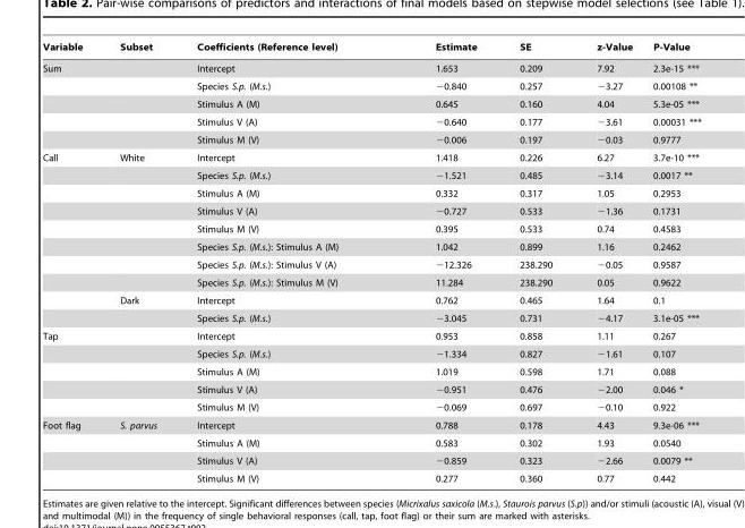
<table><thead><tr><td>Variable</td><td>Subset</td><td>Coefficients (Reference level)</td><td>Estimate</td><td>SE</td><td>z-Value</td><td>P-Value</td></tr></thead><tbody><tr><td rowspan="5">Sum</td><td></td><td>Intercept</td><td>1.653</td><td>0.209</td><td>7.92</td><td>2.3e-15 ***</td></tr><tr><td></td><td>Species S.p. (M.s.)</td><td>−0.840</td><td>0.257</td><td>−3.27</td><td>0.00108 **</td></tr><tr><td></td><td>Stimulus A (M)</td><td>0.645</td><td>0.160</td><td>4.04</td><td>5.3e-05 ***</td></tr><tr><td></td><td>Stimulus V (A)</td><td>−0.640</td><td>0.177</td><td>−3.61</td><td>0.00031 ***</td></tr><tr><td></td><td>Stimulus M (V)</td><td>−0.006</td><td>0.197</td><td>−0.03</td><td>0.9777</td></tr><tr><td rowspan="10">Call</td><td>White</td><td>Intercept</td><td>1.418</td><td>0.226</td><td>6.27</td><td>3.7e-10 ***</td></tr><tr><td></td><td>Species S.p. (M.s.)</td><td>−1.521</td><td>0.485</td><td>−3.14</td><td>0.0017 **</td></tr><tr><td></td><td>Stimulus A (M)</td><td>0.332</td><td>0.317</td><td>1.05</td><td>0.2953</td></tr><tr><td></td><td>Stimulus V (A)</td><td>−0.727</td><td>0.533</td><td>−1.36</td><td>0.1731</td></tr><tr><td></td><td>Stimulus M (V)</td><td>0.395</td><td>0.533</td><td>0.74</td><td>0.4583</td></tr><tr><td></td><td>Species S.p. (M.s.): Stimulus A (M)</td><td>1.042</td><td>0.899</td><td>1.16</td><td>0.2462</td></tr><tr><td></td><td>Species S.p. (M.s.): Stimulus V (A)</td><td>−12.326</td><td>238.290</td><td>−0.05</td><td>0.9587</td></tr><tr><td></td><td>Species S.p. (M.s.): Stimulus M (V)</td><td>11.284</td><td>238.290</td><td>0.05</td><td>0.9622</td></tr><tr><td>Dark</td><td>Intercept</td><td>0.762</td><td>0.465</td><td>1.64</td><td>0.1</td></tr><tr><td></td><td>Species S.p. (M.s.)</td><td>−3.045</td><td>0.731</td><td>−4.17</td><td>3.1e-05 ***</td></tr><tr><td rowspan="5">Tap</td><td></td><td>Intercept</td><td>0.953</td><td>0.858</td><td>1.11</td><td>0.267</td></tr><tr><td></td><td>Species S.p. (M.s.)</td><td>−1.334</td><td>0.827</td><td>−1.61</td><td>0.107</td></tr><tr><td></td><td>Stimulus A (M)</td><td>1.019</td><td>0.598</td><td>1.71</td><td>0.088</td></tr><tr><td></td><td>Stimulus V (A)</td><td>−0.951</td><td>0.476</td><td>−2.00</td><td>0.046 *</td></tr><tr><td></td><td>Stimulus M (V)</td><td>−0.069</td><td>0.697</td><td>−0.10</td><td>0.922</td></tr><tr><td rowspan="4">Foot flag</td><td>S. parvus</td><td>Intercept</td><td>0.788</td><td>0.178</td><td>4.43</td><td>9.3e-06 ***</td></tr><tr><td></td><td>Stimulus A (M)</td><td>0.583</td><td>0.302</td><td>1.93</td><td>0.0540</td></tr><tr><td></td><td>Stimulus V (A)</td><td>−0.859</td><td>0.323</td><td>−2.66</td><td>0.0079 **</td></tr><tr><td></td><td>Stimulus M (V)</td><td>0.277</td><td>0.360</td><td>0.77</td><td>0.442</td></tr></tbody></table>